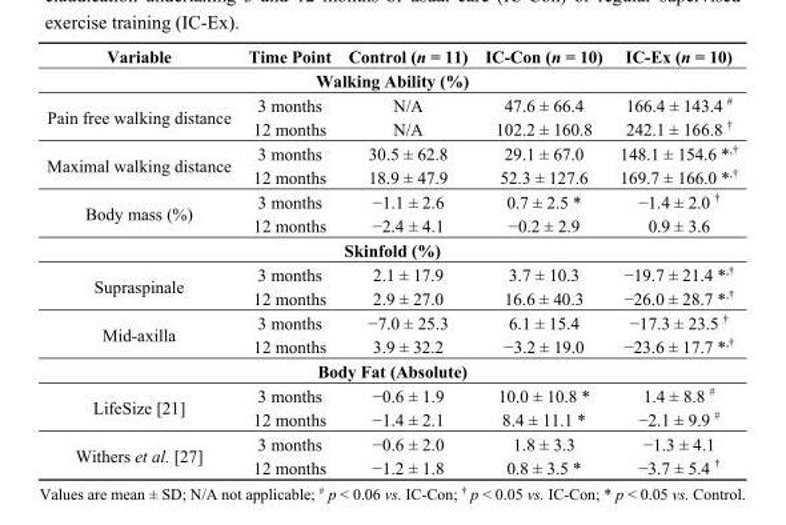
<table><thead><tr><td>Variable</td><td>Time Point</td><td>Control (n = 11)</td><td>IC-Con (n = 10)</td><td>IC-Ex (n = 10)</td></tr></thead><tbody><tr><td colspan="5">Walking Ability (%)</td></tr><tr><td rowspan="2">Pain free walking distance</td><td>3 months</td><td>N/A</td><td>47.6 ± 66.4</td><td>166.4 ± 143.4 <sup>#</sup></td></tr><tr><td>12 months</td><td>N/A</td><td>102.2 ± 160.8</td><td>242.1 ± 166.8 <sup>†</sup></td></tr><tr><td rowspan="2">Maximal walking distance</td><td>3 months</td><td>30.5 ± 62.8</td><td>29.1 ± 67.0</td><td>148.1 ± 154.6 *<sup>,†</sup></td></tr><tr><td>12 months</td><td>18.9 ± 47.9</td><td>52.3 ± 127.6</td><td>169.7 ± 166.0 *<sup>,†</sup></td></tr><tr><td rowspan="2">Body mass (%)</td><td>3 months</td><td>−1.1 ± 2.6</td><td>0.7 ± 2.5 *</td><td>−1.4 ± 2.0 <sup>†</sup></td></tr><tr><td>12 months</td><td>−2.4 ± 4.1</td><td>−0.2 ± 2.9</td><td>0.9 ± 3.6</td></tr><tr><td colspan="5">Skinfold (%)</td></tr><tr><td rowspan="2">Supraspinale</td><td>3 months</td><td>2.1 ± 17.9</td><td>3.7 ± 10.3</td><td>−19.7 ± 21.4 *<sup>,†</sup></td></tr><tr><td>12 months</td><td>2.9 ± 27.0</td><td>16.6 ± 40.3</td><td>−26.0 ± 28.7 *<sup>,†</sup></td></tr><tr><td rowspan="2">Mid-axilla</td><td>3 months</td><td>−7.0 ± 25.3</td><td>6.1 ± 15.4</td><td>−17.3 ± 23.5 <sup>†</sup></td></tr><tr><td>12 months</td><td>3.9 ± 32.2</td><td>−3.2 ± 19.0</td><td>−23.6 ± 17.7 *<sup>,†</sup></td></tr><tr><td colspan="5">Body Fat (Absolute)</td></tr><tr><td rowspan="2">LifeSize [21]</td><td>3 months</td><td>−0.6 ± 1.9</td><td>10.0 ± 10.8 *</td><td>1.4 ± 8.8 <sup>#</sup></td></tr><tr><td>12 months</td><td>−1.4 ± 2.1</td><td>8.4 ± 11.1 *</td><td>−2.1 ± 9.9 <sup>#</sup></td></tr><tr><td rowspan="2">Withers et al. [27]</td><td>3 months</td><td>−0.6 ± 2.0</td><td>1.8 ± 3.3</td><td>−1.3 ± 4.1</td></tr><tr><td>12 months</td><td>−1.2 ± 1.8</td><td>0.8 ± 3.5 *</td><td>−3.7 ± 5.4 <sup>†</sup></td></tr></tbody></table>